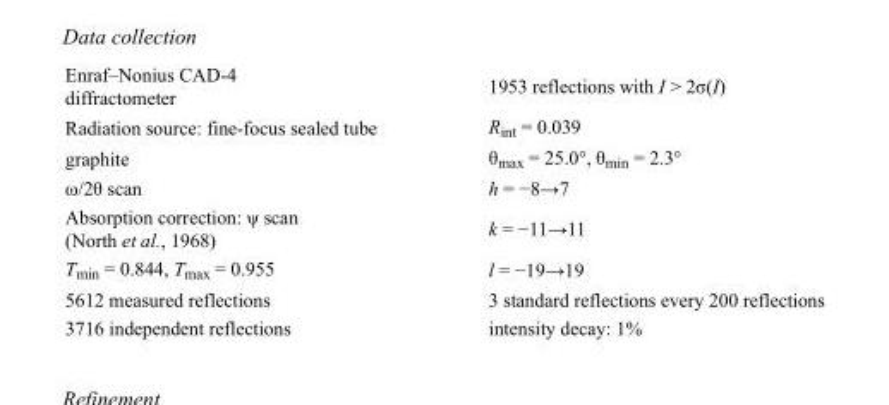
<table><tbody><tr><td>Enraf–Nonius CAD-4 diffractometer</td><td>1953 reflections with I &gt; 2σ(I)</td></tr><tr><td>Radiation source: fine-focus sealed tube</td><td>R<sub>int</sub> = 0.039</td></tr><tr><td>graphite</td><td>θ<sub>max</sub> = 25.0°, θ<sub>min</sub> = 2.3°</td></tr><tr><td>ω/2θ scan</td><td>h = −8→7</td></tr><tr><td>Absorption correction: ψ scan (North et al., 1968)</td><td>k = −11→11</td></tr><tr><td>T<sub>min</sub> = 0.844, T<sub>max</sub> = 0.955</td><td>l = −19→19</td></tr><tr><td>5612 measured reflections</td><td>3 standard reflections every 200 reflections</td></tr><tr><td>3716 independent reflections</td><td>intensity decay: 1%</td></tr></tbody></table>